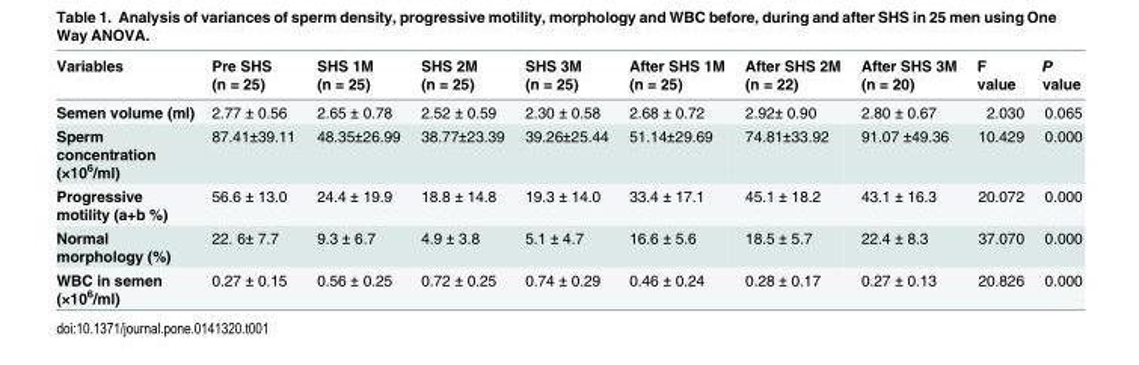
<table><thead><tr><td>Variables</td><td>Pre SHS (n = 25)</td><td>SHS 1M (n = 25)</td><td>SHS 2M (n = 25)</td><td>SHS 3M (n = 25)</td><td>After SHS 1M (n = 25)</td><td>After SHS 2M (n = 22)</td><td>After SHS 3M (n = 20)</td><td>F value</td><td>P value</td></tr></thead><tbody><tr><td>Semen volume (ml)</td><td>2.77 ± 0.56</td><td>2.65 ± 0.78</td><td>2.52 ± 0.59</td><td>2.30 ± 0.58</td><td>2.68 ± 0.72</td><td>2.92± 0.90</td><td>2.80 ± 0.67</td><td>2.030</td><td>0.065</td></tr><tr><td>Sperm concentration (×10<sup>6</sup>/ml)</td><td>87.41±39.11</td><td>48.35±26.99</td><td>38.77±23.39</td><td>39.26±25.44</td><td>51.14±29.69</td><td>74.81±33.92</td><td>91.07 ±49.36</td><td>10.429</td><td>0.000</td></tr><tr><td>Progressive motility (a+b %)</td><td>56.6 ± 13.0</td><td>24.4 ± 19.9</td><td>18.8 ± 14.8</td><td>19.3 ± 14.0</td><td>33.4 ± 17.1</td><td>45.1 ± 18.2</td><td>43.1 ± 16.3</td><td>20.072</td><td>0.000</td></tr><tr><td>Normal morphology (%)</td><td>22. 6± 7.7</td><td>9.3 ± 6.7</td><td>4.9 ± 3.8</td><td>5.1 ± 4.7</td><td>16.6 ± 5.6</td><td>18.5 ± 5.7</td><td>22.4 ± 8.3</td><td>37.070</td><td>0.000</td></tr><tr><td>WBC in semen (×10<sup>6</sup>/ml)</td><td>0.27 ± 0.15</td><td>0.56 ± 0.25</td><td>0.72 ± 0.25</td><td>0.74 ± 0.29</td><td>0.46 ± 0.24</td><td>0.28 ± 0.17</td><td>0.27 ± 0.13</td><td>20.826</td><td>0.000</td></tr></tbody></table>